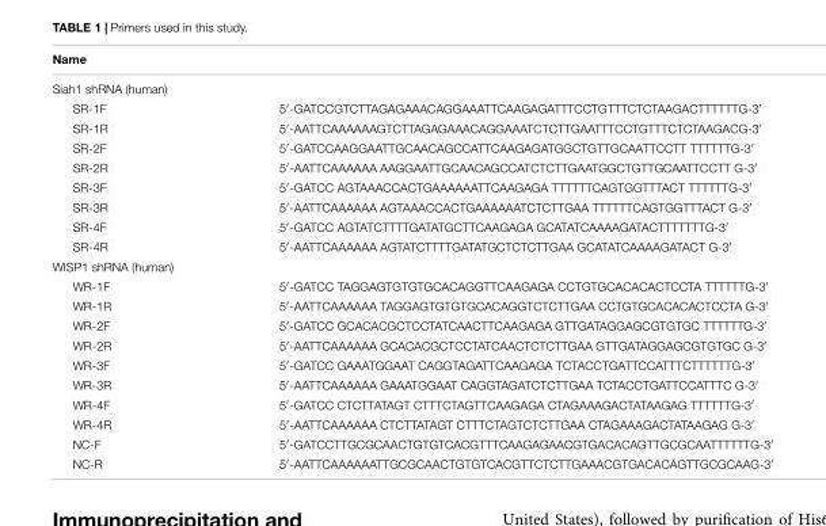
<table><thead><tr><td>Name</td><td></td></tr></thead><tbody><tr><td colspan="2">Siah1 shRNA (human)</td></tr><tr><td>SR-1F</td><td>5′-GATCCGTCTTAGAGAAACAGGAAATTCAAGAGATTTCCTGTTTCTCTAAGACTTTTTTG-3′</td></tr><tr><td>SR-1R</td><td>5′-AATTCAAAAAAGTCTTAGAGAAACAGGAAATCTCTTGAATTTCCTGTTTCTCTAAGACG-3′</td></tr><tr><td>SR-2F</td><td>5′-GATCCAAGGAATTGCAACAGCCATTCAAGAGATGGCTGTTGCAATTCCTT TTTTTTG-3′</td></tr><tr><td>SR-2R</td><td>5′-AATTCAAAAAA AAGGAATTGCAACAGCCATCTCTTGAATGGCTGTTGCAATTCCTT G-3′</td></tr><tr><td>SR-3F</td><td>5′-GATCC AGTAAACCACTGAAAAAATTCAAGAGA TTTTTTCAGTGGTTTACT TTTTTTG-3′</td></tr><tr><td>SR-3R</td><td>5′-AATTCAAAAAA AGTAAACCACTGAAAAAATCTCTTGAA TTTTTTCAGTGGTTTACT G-3′</td></tr><tr><td>SR-4F</td><td>5′-GATCC AGTATCTTTTGATATGCTTCAAGAGA GCATATCAAAAGATACTTTTTTTG-3′</td></tr><tr><td>SR-4R</td><td>5′-AATTCAAAAAA AGTATCTTTTGATATGCTCTCTTGAA GCATATCAAAAGATACT G-3′</td></tr><tr><td colspan="2">WISP1 shRNA (human)</td></tr><tr><td>WR-1F</td><td>5′-GATCC TAGGAGTGTGTGCACAGGTTCAAGAGA CCTGTGCACACACTCCTA TTTTTTG-3′</td></tr><tr><td>WR-1R</td><td>5′-AATTCAAAAAA TAGGAGTGTGTGCACAGGTCTCTTGAA CCTGTGCACACACTCCTA G-3′</td></tr><tr><td>WR-2F</td><td>5′-GATCC GCACACGCTCCTATCAACTTCAAGAGA GTTGATAGGAGCGTGTGC TTTTTTG-3′</td></tr><tr><td>WR-2R</td><td>5′-AATTCAAAAAA GCACACGCTCCTATCAACTCTCTTGAA GTTGATAGGAGCGTGTGC G-3′</td></tr><tr><td>WR-3F</td><td>5′-GATCC GAAATGGAAT CAGGTAGATTCAAGAGA TCTACCTGATTCCATTTCTTTTTTG-3′</td></tr><tr><td>WR-3R</td><td>5′-AATTCAAAAAA GAAATGGAAT CAGGTAGATCTCTTGAA TCTACCTGATTCCATTTC G-3′</td></tr><tr><td>WR-4F</td><td>5′-GATCC CTCTTATAGT CTTTCTAGTTCAAGAGA CTAGAAAGACTATAAGAG TTTTTTG-3′</td></tr><tr><td>WR-4R</td><td>5′-AATTCAAAAAA CTCTTATAGT CTTTCTAGTCTCTTGAA CTAGAAAGACTATAAGAG G-3′</td></tr><tr><td>NC-F</td><td>5′-GATCCTTGCGCAACTGTGTCACGTTTCAAGAGAACGTGACACAGTTGCGCAATTTTTTG-3′</td></tr><tr><td>NC-R</td><td>5′-AATTCAAAAAATTGCGCAACTGTGTCACGTTCTCTTGAAACGTGACACAGTTGCGCAAG-3′</td></tr></tbody></table>